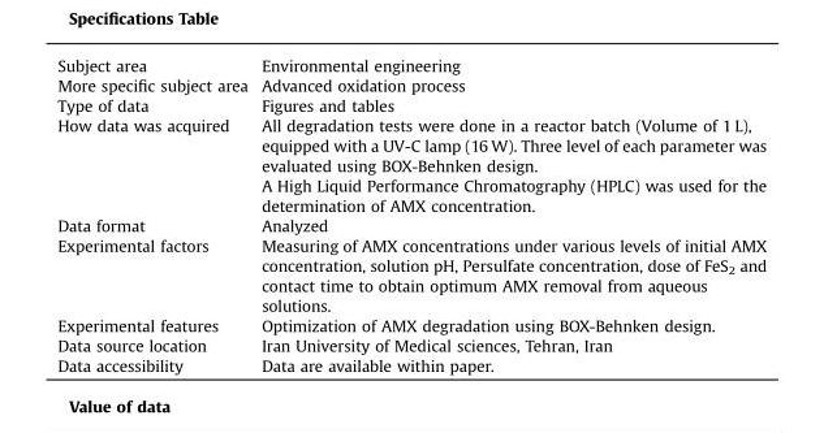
<table><tbody><tr><td>Subject area</td><td>Environmental engineering</td></tr><tr><td>More specific subject area</td><td>Advanced oxidation process</td></tr><tr><td>Type of data</td><td>Figures and tables</td></tr><tr><td rowspan="2">How data was acquired</td><td>All degradation tests were done in a reactor batch (Volume of 1 L), equipped with a UV-C lamp (16 W). Three level of each parameter was evaluated using BOX-Behnken design.</td></tr><tr><td>A High Liquid Performance Chromatography (HPLC) was used for the determination of AMX concentration.</td></tr><tr><td>Data format</td><td>Analyzed</td></tr><tr><td>Experimental factors</td><td>Measuring of AMX concentrations under various levels of initial AMX concentration, solution pH, Persulfate concentration, dose of FeS<sub>2</sub> and contact time to obtain optimum AMX removal from aqueous solutions.</td></tr><tr><td>Experimental features</td><td>Optimization of AMX degradation using BOX-Behnken design.</td></tr><tr><td>Data source location</td><td>Iran University of Medical sciences, Tehran, Iran</td></tr><tr><td>Data accessibility</td><td>Data are available within paper.</td></tr></tbody></table>